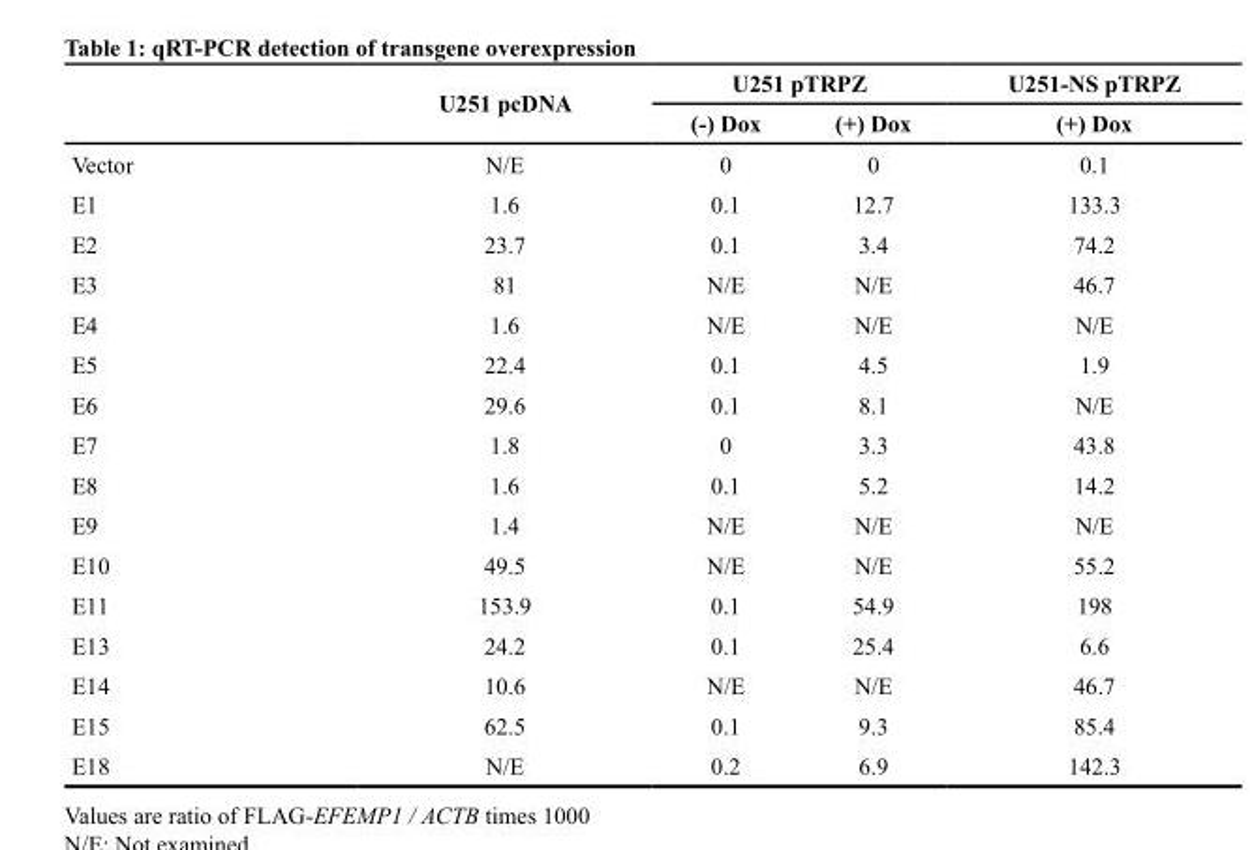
<table><thead><tr><td rowspan="2"></td><td rowspan="2">U251 pcDNA</td><td colspan="2">U251 pTRPZ</td><td rowspan="2">U251-NS pTRPZ (+) Dox</td></tr><tr><td>(-) Dox</td><td>(+) Dox</td></tr></thead><tbody><tr><td>Vector</td><td>N/E</td><td>0</td><td>0</td><td>0.1</td></tr><tr><td>E1</td><td>1.6</td><td>0.1</td><td>12.7</td><td>133.3</td></tr><tr><td>E2</td><td>23.7</td><td>0.1</td><td>3.4</td><td>74.2</td></tr><tr><td>E3</td><td>81</td><td>N/E</td><td>N/E</td><td>46.7</td></tr><tr><td>E4</td><td>1.6</td><td>N/E</td><td>N/E</td><td>N/E</td></tr><tr><td>E5</td><td>22.4</td><td>0.1</td><td>4.5</td><td>1.9</td></tr><tr><td>E6</td><td>29.6</td><td>0.1</td><td>8.1</td><td>N/E</td></tr><tr><td>E7</td><td>1.8</td><td>0</td><td>3.3</td><td>43.8</td></tr><tr><td>E8</td><td>1.6</td><td>0.1</td><td>5.2</td><td>14.2</td></tr><tr><td>E9</td><td>1.4</td><td>N/E</td><td>N/E</td><td>N/E</td></tr><tr><td>E10</td><td>49.5</td><td>N/E</td><td>N/E</td><td>55.2</td></tr><tr><td>E11</td><td>153.9</td><td>0.1</td><td>54.9</td><td>198</td></tr><tr><td>E13</td><td>24.2</td><td>0.1</td><td>25.4</td><td>6.6</td></tr><tr><td>E14</td><td>10.6</td><td>N/E</td><td>N/E</td><td>46.7</td></tr><tr><td>E15</td><td>62.5</td><td>0.1</td><td>9.3</td><td>85.4</td></tr><tr><td>E18</td><td>N/E</td><td>0.2</td><td>6.9</td><td>142.3</td></tr></tbody></table>